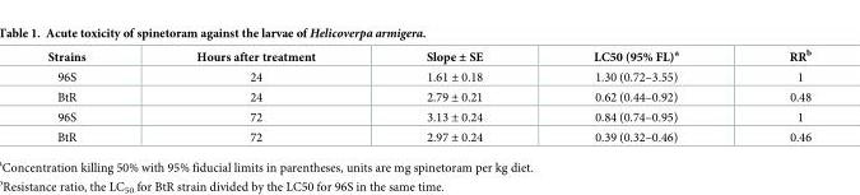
<table><thead><tr><td>Strains</td><td>Hours after treatment</td><td>Slope ± SE</td><td>LC50 (95% FL)<sup>a</sup></td><td>RR<sup>b</sup></td></tr></thead><tbody><tr><td>96S</td><td>24</td><td>1.61 ± 0.18</td><td>1.30 (0.72–3.55)</td><td>1</td></tr><tr><td>BtR</td><td>24</td><td>2.79 ± 0.21</td><td>0.62 (0.44–0.92)</td><td>0.48</td></tr><tr><td>96S</td><td>72</td><td>3.13 ± 0.24</td><td>0.84 (0.74–0.95)</td><td>1</td></tr><tr><td>BtR</td><td>72</td><td>2.97 ± 0.24</td><td>0.39 (0.32–0.46)</td><td>0.46</td></tr></tbody></table>